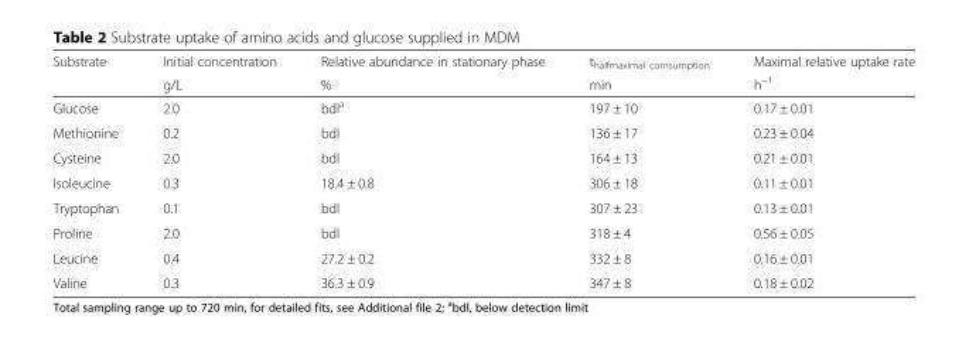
<table><thead><tr><td rowspan="2">Substrate</td><td rowspan="2">Initial concentration g/L</td><td rowspan="2">Relative abundance in stationary phase %</td><td rowspan="2">t<sub>halfmaximal comsumption</sub> min</td><td rowspan="2">Maximal relative uptake rate h<sup>−1</sup></td></tr><tr></tr></thead><tbody><tr><td>Glucose</td><td>2.0</td><td>bdl<sup>a</sup></td><td>197 ± 10</td><td>0.17 ± 0.01</td></tr><tr><td>Methionine</td><td>0.2</td><td>bdl</td><td>136 ± 17</td><td>0.23 ± 0.04</td></tr><tr><td>Cysteine</td><td>2.0</td><td>bdl</td><td>164 ± 13</td><td>0.21 ± 0.01</td></tr><tr><td>Isoleucine</td><td>0.3</td><td>18.4 ± 0.8</td><td>306 ± 18</td><td>0.11 ± 0.01</td></tr><tr><td>Tryptophan</td><td>0.1</td><td>bdl</td><td>307 ± 23</td><td>0.13 ± 0.01</td></tr><tr><td>Proline</td><td>2.0</td><td>bdl</td><td>318 ± 4</td><td>0.56 ± 0.05</td></tr><tr><td>Leucine</td><td>0.4</td><td>27.2 ± 0.2</td><td>332 ± 8</td><td>0.16 ± 0.01</td></tr><tr><td>Valine</td><td>0.3</td><td>36.3 ± 0.9</td><td>347 ± 8</td><td>0.18 ± 0.02</td></tr></tbody></table>